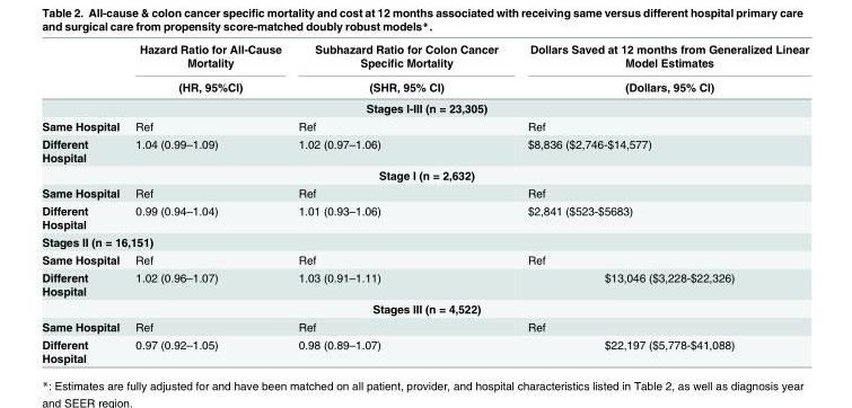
<table><thead><tr><td rowspan="2"></td><td rowspan="2">Hazard Ratio for All-Cause Mortality (HR, 95%CI)</td><td rowspan="2">Subhazard Ratio for Colon Cancer Specific Mortality (SHR, 95% CI)</td><td rowspan="2">Dollars Saved at 12 months from Generalized Linear Model Estimates (Dollars, 95% CI)</td></tr><tr></tr></thead><tbody><tr><td colspan="4">Stages I-III (n = 23,305)</td></tr><tr><td>Same Hospital</td><td>Ref</td><td>Ref</td><td>Ref</td></tr><tr><td>Different Hospital</td><td>1.04 (0.99–1.09)</td><td>1.02 (0.97–1.06)</td><td>$8,836 ($2,746-$14,577)</td></tr><tr><td colspan="4">Stage I (n = 2,632)</td></tr><tr><td>Same Hospital</td><td>Ref</td><td>Ref</td><td>Ref</td></tr><tr><td>Different Hospital</td><td>0.99 (0.94–1.04)</td><td>1.01 (0.93–1.06)</td><td>$2,841 ($523-$5683)</td></tr><tr><td colspan="4">Stages II (n = 16,151)</td></tr><tr><td>Same Hospital</td><td>Ref</td><td>Ref</td><td>Ref</td></tr><tr><td>Different Hospital</td><td>1.02 (0.96–1.07)</td><td>1.03 (0.91–1.11)</td><td>$13,046 ($3,228-$22,326)</td></tr><tr><td colspan="4">Stages III (n = 4,522)</td></tr><tr><td>Same Hospital</td><td>Ref</td><td>Ref</td><td>Ref</td></tr><tr><td>Different Hospital</td><td>0.97 (0.92–1.05)</td><td>0.98 (0.89–1.07)</td><td>$22,197 ($5,778-$41,088)</td></tr></tbody></table>